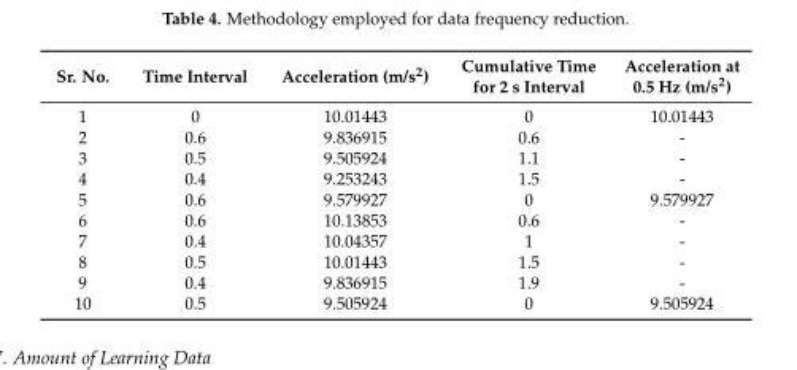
<table><thead><tr><td>Sr. No.</td><td>Time Interval</td><td>Acceleration (m/s<sup>2</sup>)</td><td>Cumulative Time for 2 s Interval</td><td>Acceleration at 0.5 Hz (m/s<sup>2</sup>)</td></tr></thead><tbody><tr><td>1</td><td>0</td><td>10.01443</td><td>0</td><td>10.01443</td></tr><tr><td>2</td><td>0.6</td><td>9.836915</td><td>0.6</td><td>-</td></tr><tr><td>3</td><td>0.5</td><td>9.505924</td><td>1.1</td><td>-</td></tr><tr><td>4</td><td>0.4</td><td>9.253243</td><td>1.5</td><td>-</td></tr><tr><td>5</td><td>0.6</td><td>9.579927</td><td>0</td><td>9.579927</td></tr><tr><td>6</td><td>0.6</td><td>10.13853</td><td>0.6</td><td>-</td></tr><tr><td>7</td><td>0.4</td><td>10.04357</td><td>1</td><td>-</td></tr><tr><td>8</td><td>0.5</td><td>10.01443</td><td>1.5</td><td>-</td></tr><tr><td>9</td><td>0.4</td><td>9.836915</td><td>1.9</td><td>-</td></tr><tr><td>10</td><td>0.5</td><td>9.505924</td><td>0</td><td>9.505924</td></tr></tbody></table>